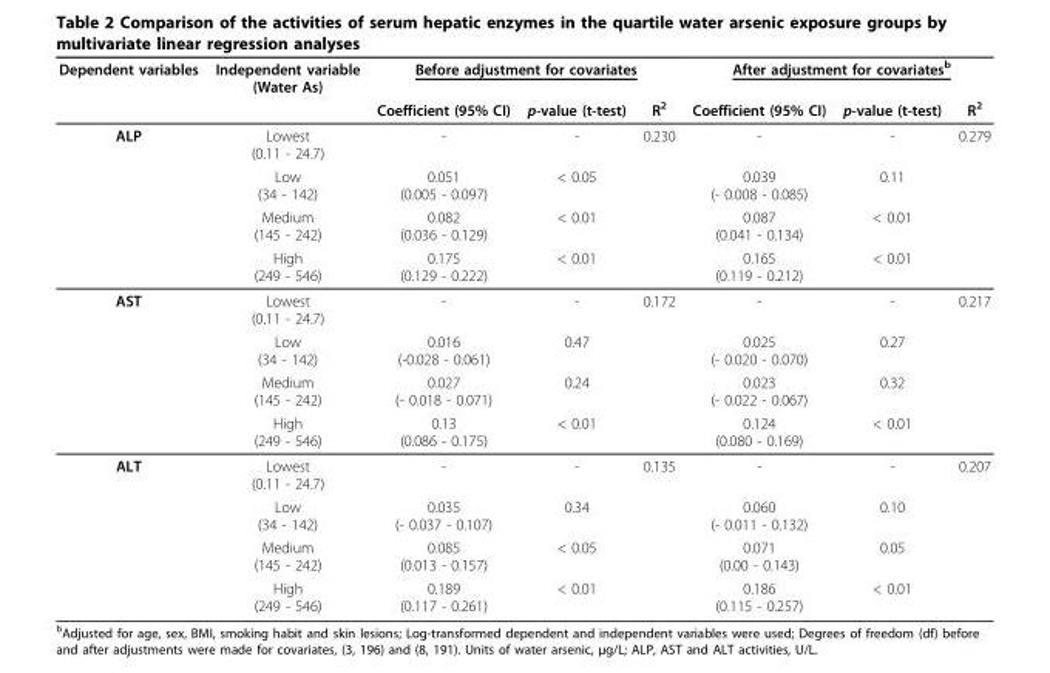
<table><thead><tr><td rowspan="2">Dependent variables</td><td rowspan="2">Independent variable (Water As)</td><td colspan="3">Before adjustment for covariates</td><td colspan="3">After adjustment for covariates<sup>b</sup></td></tr><tr><td>Coefficient (95% CI)</td><td>p-value (t-test)</td><td>R<sup>2</sup></td><td>Coefficient (95% CI)</td><td>p-value (t-test)</td><td>R<sup>2</sup></td></tr></thead><tbody><tr><td rowspan="4">ALP</td><td>Lowest (0.11 - 24.7)</td><td>-</td><td>-</td><td>0.230</td><td>-</td><td>-</td><td>0.279</td></tr><tr><td>Low (34 - 142)</td><td>0.051 (0.005 - 0.097)</td><td>&lt; 0.05</td><td></td><td>0.039 (- 0.008 - 0.085)</td><td>0.11</td><td></td></tr><tr><td>Medium (145 - 242)</td><td>0.082 (0.036 - 0.129)</td><td>&lt; 0.01</td><td></td><td>0.087 (0.041 - 0.134)</td><td>&lt; 0.01</td><td></td></tr><tr><td>High (249 - 546)</td><td>0.175 (0.129 - 0.222)</td><td>&lt; 0.01</td><td></td><td>0.165 (0.119 - 0.212)</td><td>&lt; 0.01</td><td></td></tr><tr><td rowspan="4">AST</td><td>Lowest (0.11 - 24.7)</td><td>-</td><td>-</td><td>0.172</td><td>-</td><td>-</td><td>0.217</td></tr><tr><td>Low (34 - 142)</td><td>0.016 (-0.028 - 0.061)</td><td>0.47</td><td></td><td>0.025 (- 0.020 - 0.070)</td><td>0.27</td><td></td></tr><tr><td>Medium (145 - 242)</td><td>0.027 (- 0.018 - 0.071)</td><td>0.24</td><td></td><td>0.023 (- 0.022 - 0.067)</td><td>0.32</td><td></td></tr><tr><td>High (249 - 546)</td><td>0.13 (0.086 - 0.175)</td><td>&lt; 0.01</td><td></td><td>0.124 (0.080 - 0.169)</td><td>&lt; 0.01</td><td></td></tr><tr><td rowspan="4">ALT</td><td>Lowest (0.11 - 24.7)</td><td>-</td><td>-</td><td>0.135</td><td>-</td><td>-</td><td>0.207</td></tr><tr><td>Low (34 - 142)</td><td>0.035 (- 0.037 - 0.107)</td><td>0.34</td><td></td><td>0.060 (- 0.011 - 0.132)</td><td>0.10</td><td></td></tr><tr><td>Medium (145 - 242)</td><td>0.085 (0.013 - 0.157)</td><td>&lt; 0.05</td><td></td><td>0.071 (0.00 - 0.143)</td><td>0.05</td><td></td></tr><tr><td>High (249 - 546)</td><td>0.189 (0.117 - 0.261)</td><td>&lt; 0.01</td><td></td><td>0.186 (0.115 - 0.257)</td><td>&lt; 0.01</td><td></td></tr></tbody></table>